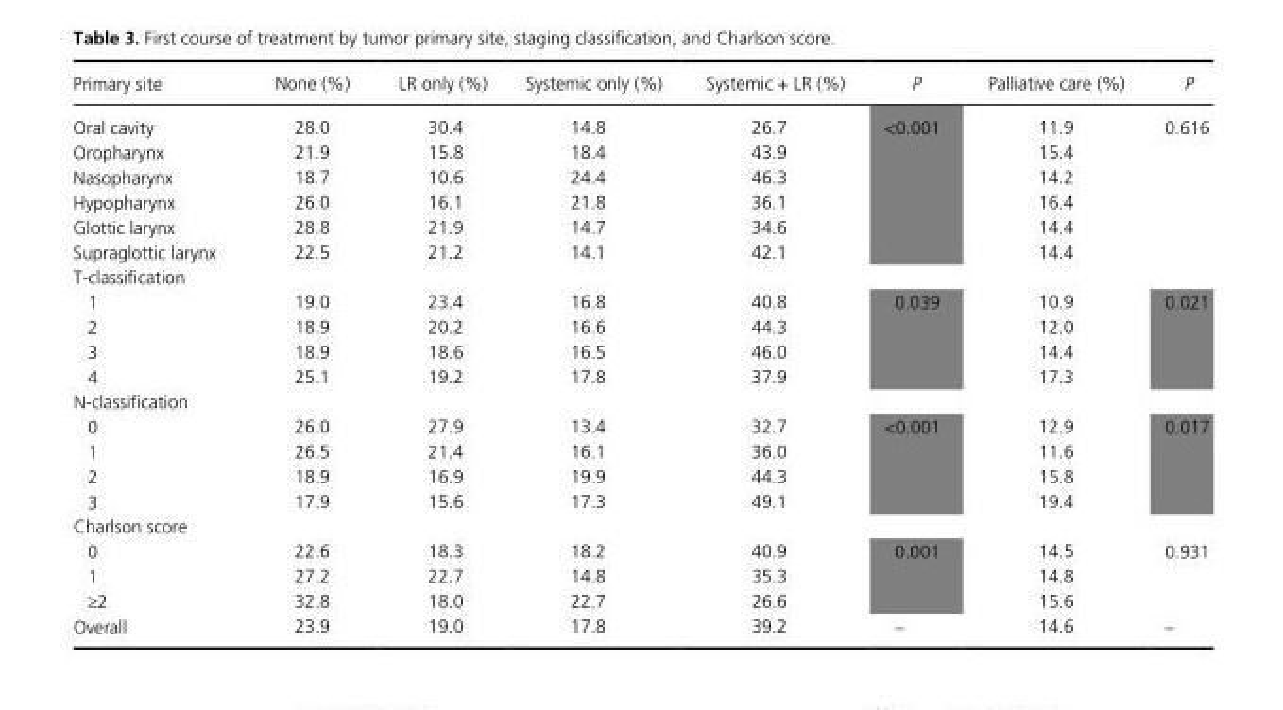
<table><thead><tr><td>Primary site</td><td>None (%)</td><td>LR only (%)</td><td>Systemic only (%)</td><td>Systemic + LR (%)</td><td>P</td><td>Palliative care (%)</td><td>P</td></tr></thead><tbody><tr><td>Oral cavity</td><td>28.0</td><td>30.4</td><td>14.8</td><td>26.7</td><td rowspan="6">&lt;0.001</td><td>11.9</td><td rowspan="6">0.616</td></tr><tr><td>Oropharynx</td><td>21.9</td><td>15.8</td><td>18.4</td><td>43.9</td><td>15.4</td></tr><tr><td>Nasopharynx</td><td>18.7</td><td>10.6</td><td>24.4</td><td>46.3</td><td>14.2</td></tr><tr><td>Hypopharynx</td><td>26.0</td><td>16.1</td><td>21.8</td><td>36.1</td><td>16.4</td></tr><tr><td>Glottic larynx</td><td>28.8</td><td>21.9</td><td>14.7</td><td>34.6</td><td>14.4</td></tr><tr><td>Supraglottic larynx</td><td>22.5</td><td>21.2</td><td>14.1</td><td>42.1</td><td>14.4</td></tr><tr><td colspan="8">T- classification</td></tr><tr><td>1</td><td>19.0</td><td>23.4</td><td>16.8</td><td>40.8</td><td rowspan="4">0.039</td><td>10.9</td><td rowspan="4">0.021</td></tr><tr><td>2</td><td>18.9</td><td>20.2</td><td>16.6</td><td>44.3</td><td>12.0</td></tr><tr><td>3</td><td>18.9</td><td>18.6</td><td>16.5</td><td>46.0</td><td>14.4</td></tr><tr><td>4</td><td>25.1</td><td>19.2</td><td>17.8</td><td>37.9</td><td>17.3</td></tr><tr><td colspan="8">N- classification</td></tr><tr><td>0</td><td>26.0</td><td>27.9</td><td>13.4</td><td>32.7</td><td rowspan="4">&lt;0.001</td><td>12.9</td><td rowspan="4">0.017</td></tr><tr><td>1</td><td>26.5</td><td>21.4</td><td>16.1</td><td>36.0</td><td>11.6</td></tr><tr><td>2</td><td>18.9</td><td>16.9</td><td>19.9</td><td>44.3</td><td>15.8</td></tr><tr><td>3</td><td>17.9</td><td>15.6</td><td>17.3</td><td>49.1</td><td>19.4</td></tr><tr><td colspan="8">Charlson score</td></tr><tr><td>0</td><td>22.6</td><td>18.3</td><td>18.2</td><td>40.9</td><td rowspan="3">0.001</td><td>14.5</td><td rowspan="3">0.931</td></tr><tr><td>1</td><td>27.2</td><td>22.7</td><td>14.8</td><td>35.3</td><td>14.8</td></tr><tr><td>≥2</td><td>32.8</td><td>18.0</td><td>22.7</td><td>26.6</td><td>15.6</td></tr><tr><td>Overall</td><td>23.9</td><td>19.0</td><td>17.8</td><td>39.2</td><td>–</td><td>14.6</td><td>–</td></tr></tbody></table>